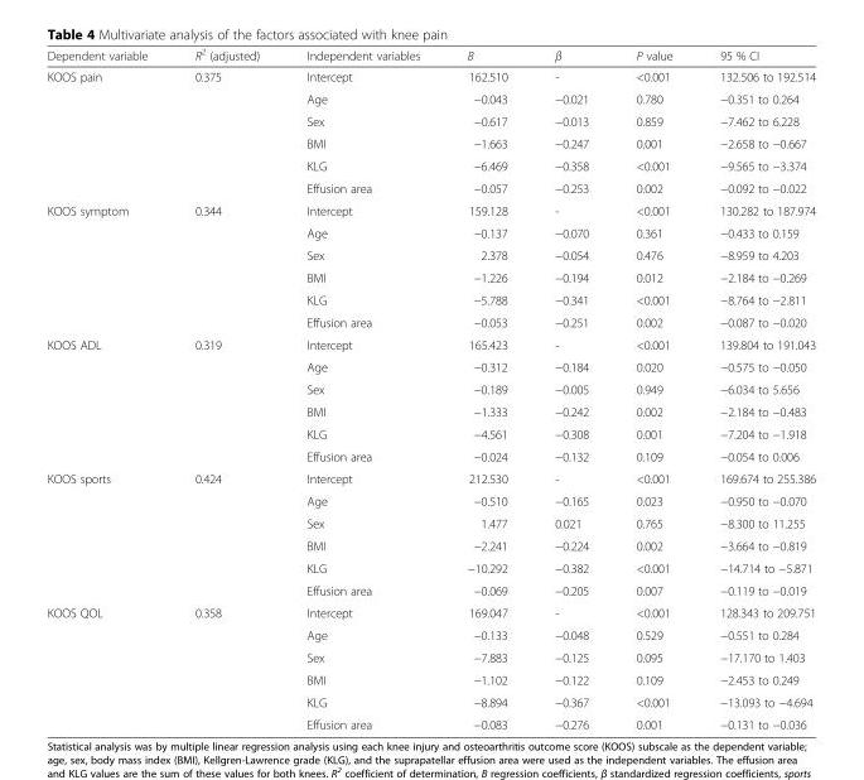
<table><thead><tr><td>Dependent variable</td><td>R<sup>2</sup> (adjusted)</td><td>Independent variables</td><td>B</td><td>β</td><td>P value</td><td>95 % CI</td></tr></thead><tbody><tr><td rowspan="6">KOOS pain</td><td>0.375</td><td>Intercept</td><td>162.510</td><td>-</td><td>&lt;0.001</td><td>132.506 to 192.514</td></tr><tr><td></td><td>Age</td><td>−0.043</td><td>−0.021</td><td>0.780</td><td>−0.351 to 0.264</td></tr><tr><td></td><td>Sex</td><td>−0.617</td><td>−0.013</td><td>0.859</td><td>−7.462 to 6.228</td></tr><tr><td></td><td>BMI</td><td>−1.663</td><td>−0.247</td><td>0.001</td><td>−2.658 to −0.667</td></tr><tr><td></td><td>KLG</td><td>−6.469</td><td>−0.358</td><td>&lt;0.001</td><td>−9.565 to −3.374</td></tr><tr><td></td><td>Effusion area</td><td>−0.057</td><td>−0.253</td><td>0.002</td><td>−0.092 to −0.022</td></tr><tr><td rowspan="6">KOOS symptom</td><td>0.344</td><td>Intercept</td><td>159.128</td><td>-</td><td>&lt;0.001</td><td>130.282 to 187.974</td></tr><tr><td></td><td>Age</td><td>−0.137</td><td>−0.070</td><td>0.361</td><td>−0.433 to 0.159</td></tr><tr><td></td><td>Sex</td><td>2.378</td><td>−0.054</td><td>0.476</td><td>−8.959 to 4.203</td></tr><tr><td></td><td>BMI</td><td>−1.226</td><td>−0.194</td><td>0.012</td><td>−2.184 to −0.269</td></tr><tr><td></td><td>KLG</td><td>−5.788</td><td>−0.341</td><td>&lt;0.001</td><td>−8.764 to −2.811</td></tr><tr><td></td><td>Effusion area</td><td>−0.053</td><td>−0.251</td><td>0.002</td><td>−0.087 to −0.020</td></tr><tr><td rowspan="6">KOOS ADL</td><td>0.319</td><td>Intercept</td><td>165.423</td><td>-</td><td>&lt;0.001</td><td>139.804 to 191.043</td></tr><tr><td></td><td>Age</td><td>−0.312</td><td>−0.184</td><td>0.020</td><td>−0.575 to −0.050</td></tr><tr><td></td><td>Sex</td><td>−0.189</td><td>−0.005</td><td>0.949</td><td>−6.034 to 5.656</td></tr><tr><td></td><td>BMI</td><td>−1.333</td><td>−0.242</td><td>0.002</td><td>−2.184 to −0.483</td></tr><tr><td></td><td>KLG</td><td>−4.561</td><td>−0.308</td><td>0.001</td><td>−7.204 to −1.918</td></tr><tr><td></td><td>Effusion area</td><td>−0.024</td><td>−0.132</td><td>0.109</td><td>−0.054 to 0.006</td></tr><tr><td rowspan="6">KOOS sports</td><td>0.424</td><td>Intercept</td><td>212.530</td><td>-</td><td>&lt;0.001</td><td>169.674 to 255.386</td></tr><tr><td></td><td>Age</td><td>−0.510</td><td>−0.165</td><td>0.023</td><td>−0.950 to −0.070</td></tr><tr><td></td><td>Sex</td><td>1.477</td><td>0.021</td><td>0.765</td><td>−8.300 to 11.255</td></tr><tr><td></td><td>BMI</td><td>−2.241</td><td>−0.224</td><td>0.002</td><td>−3.664 to −0.819</td></tr><tr><td></td><td>KLG</td><td>−10.292</td><td>−0.382</td><td>&lt;0.001</td><td>−14.714 to −5.871</td></tr><tr><td></td><td>Effusion area</td><td>−0.069</td><td>−0.205</td><td>0.007</td><td>−0.119 to −0.019</td></tr><tr><td rowspan="6">KOOS QOL</td><td>0.358</td><td>Intercept</td><td>169.047</td><td>-</td><td>&lt;0.001</td><td>128.343 to 209.751</td></tr><tr><td></td><td>Age</td><td>−0.133</td><td>−0.048</td><td>0.529</td><td>−0.551 to 0.284</td></tr><tr><td></td><td>Sex</td><td>−7.883</td><td>−0.125</td><td>0.095</td><td>−17.170 to 1.403</td></tr><tr><td></td><td>BMI</td><td>−1.102</td><td>−0.122</td><td>0.109</td><td>−2.453 to 0.249</td></tr><tr><td></td><td>KLG</td><td>−8.894</td><td>−0.367</td><td>&lt;0.001</td><td>−13.093 to −4.694</td></tr><tr><td></td><td>Effusion area</td><td>−0.083</td><td>−0.276</td><td>0.001</td><td>−0.131 to −0.036</td></tr></tbody></table>